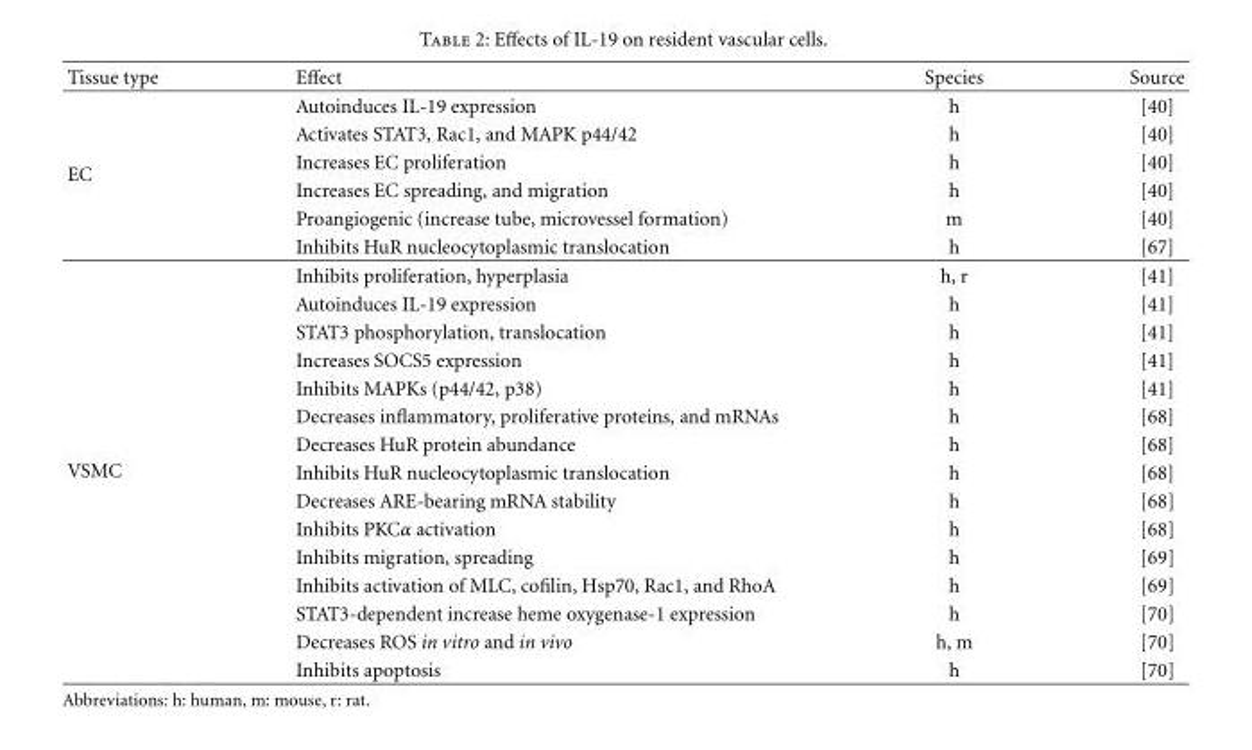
<table><thead><tr><td>Tissue type</td><td>Effect</td><td>Species</td><td>Source</td></tr></thead><tbody><tr><td rowspan="6">EC</td><td>Autoinduces IL-19 expression</td><td>h</td><td>[40]</td></tr><tr><td>Activates STAT3, Rac1, and MAPK p44/42</td><td>h</td><td>[40]</td></tr><tr><td>Increases EC proliferation</td><td>h</td><td>[40]</td></tr><tr><td>Increases EC spreading, and migration</td><td>h</td><td>[40]</td></tr><tr><td>Proangiogenic (increase tube, microvessel formation)</td><td>m</td><td>[40]</td></tr><tr><td>Inhibits HuR nucleocytoplasmic translocation</td><td>h</td><td>[67]</td></tr><tr><td rowspan="15">VSMC</td><td>Inhibits proliferation, hyperplasia</td><td>h, r</td><td>[41]</td></tr><tr><td>Autoinduces IL-19 expression</td><td>h</td><td>[41]</td></tr><tr><td>STAT3 phosphorylation, translocation</td><td>h</td><td>[41]</td></tr><tr><td>Increases SOCS5 expression</td><td>h</td><td>[41]</td></tr><tr><td>Inhibits MAPKs (p44/42, p38)</td><td>h</td><td>[41]</td></tr><tr><td>Decreases inflammatory, proliferative proteins, and mRNAs</td><td>h</td><td>[68]</td></tr><tr><td>Decreases HuR protein abundance</td><td>h</td><td>[68]</td></tr><tr><td>Inhibits HuR nucleocytoplasmic translocation</td><td>h</td><td>[68]</td></tr><tr><td>Decreases ARE-bearing mRNA stability</td><td>h</td><td>[68]</td></tr><tr><td>Inhibits PKCα activation</td><td>h</td><td>[68]</td></tr><tr><td>Inhibits migration, spreading</td><td>h</td><td>[69]</td></tr><tr><td>Inhibits activation of MLC, cofilin, Hsp70, Rac1, and RhoA</td><td>h</td><td>[69]</td></tr><tr><td>STAT3-dependent increase heme oxygenase-1 expression</td><td>h</td><td>[70]</td></tr><tr><td>Decreases ROS in vitro and in vivo</td><td>h, m</td><td>[70]</td></tr><tr><td>Inhibits apoptosis</td><td>h</td><td>[70]</td></tr></tbody></table>